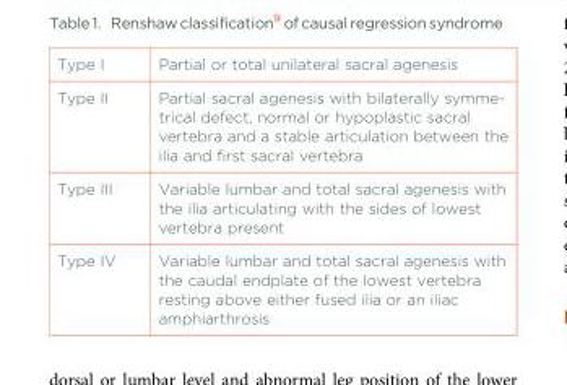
<table><tbody><tr><td>Type I</td><td>Partial or total unilateral sacral agenesis</td></tr><tr><td>Type II</td><td>Partial sacral agenesis with bilaterally symme- trical defect, normal or hypoplastic sacral vertebra and a stable articulation between the ilia and first sacral vertebra</td></tr><tr><td>Type III</td><td>Variable lumbar and total sacral agenesis with the ilia articulating with the sides of lowest vertebra present</td></tr><tr><td>Type IV</td><td>Variable lumbar and total sacral agenesis with the caudal endplate of the lowest vertebra resting above either fused ilia or an iliac amphiarthrosis</td></tr></tbody></table>